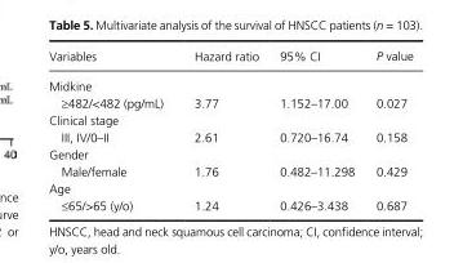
<table><thead><tr><td>Variables</td><td>Hazard ratio</td><td>95% CI</td><td>P value</td></tr></thead><tbody><tr><td>Midkine</td><td rowspan="2">3.77</td><td rowspan="2">1.152–17.00</td><td rowspan="2">0.027</td></tr><tr><td>≥482/&lt;482 (pg/mL)</td></tr><tr><td>Clinical stage</td><td rowspan="2">2.61</td><td rowspan="2">0.720–16.74</td><td rowspan="2">0.158</td></tr><tr><td>III, IV/0–II</td></tr><tr><td>Gender</td><td rowspan="2">1.76</td><td rowspan="2">0.482–11.298</td><td rowspan="2">0.429</td></tr><tr><td>Male/female</td></tr><tr><td>Age</td><td rowspan="2">1.24</td><td rowspan="2">0.426–3.438</td><td rowspan="2">0.687</td></tr><tr><td>≤65/&gt;65 (y/o)</td></tr></tbody></table>